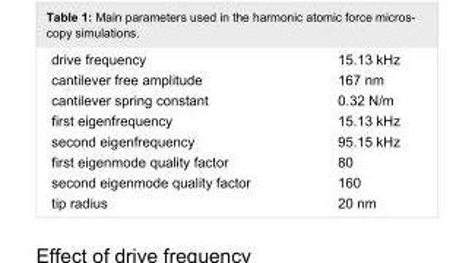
<table><tbody><tr><td>drive frequency</td><td>15.13 kHz</td></tr><tr><td>cantilever free amplitude</td><td>167 nm</td></tr><tr><td>cantilever spring constant</td><td>0.32 N/m</td></tr><tr><td>first eigenfrequency</td><td>15.13 kHz</td></tr><tr><td>second eigenfrequency</td><td>95.15 kHz</td></tr><tr><td>first eigenmode quality factor</td><td>80</td></tr><tr><td>second eigenmode quality factor</td><td>160</td></tr><tr><td>tip radius</td><td>20 nm</td></tr></tbody></table>